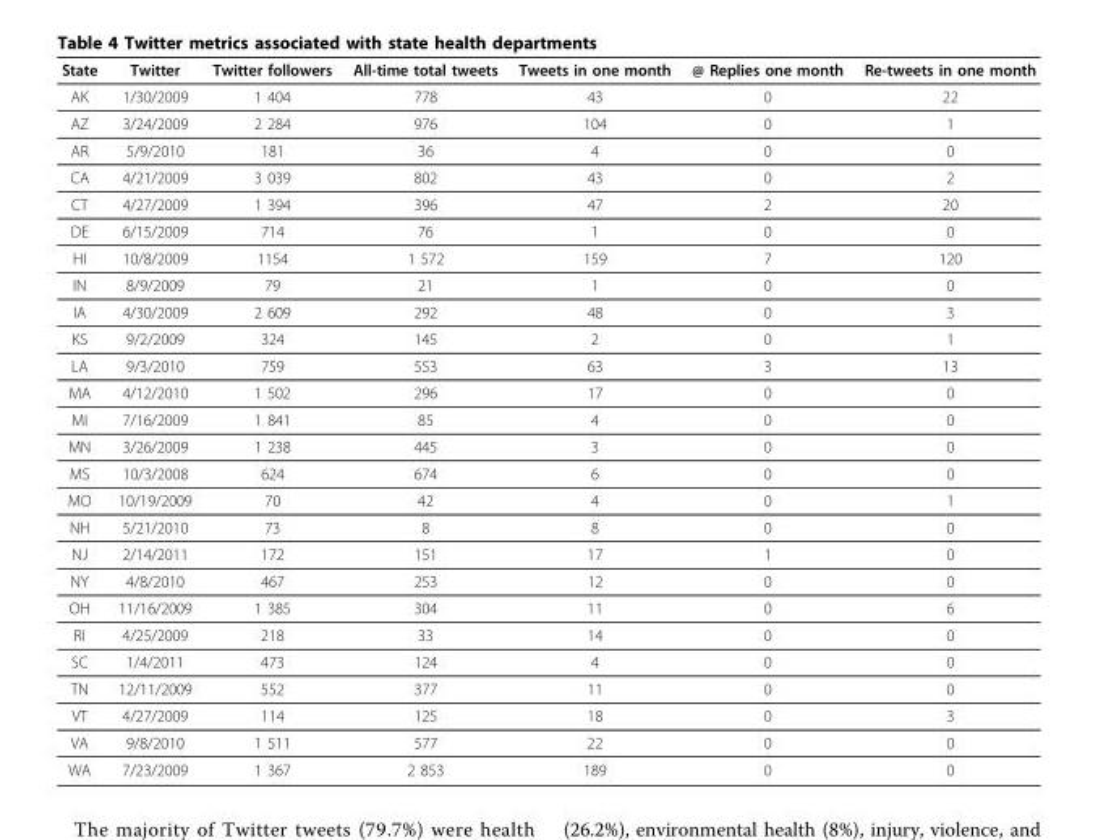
<table><thead><tr><td>State</td><td>Twitter</td><td>Twitter followers</td><td>All-time total tweets</td><td>Tweets in one month</td><td>@ Replies one month</td><td>Re-tweets in one month</td></tr></thead><tbody><tr><td>AK</td><td>1/30/2009</td><td>1 404</td><td>778</td><td>43</td><td>0</td><td>22</td></tr><tr><td>AZ</td><td>3/24/2009</td><td>2 284</td><td>976</td><td>104</td><td>0</td><td>1</td></tr><tr><td>AR</td><td>5/9/2010</td><td>181</td><td>36</td><td>4</td><td>0</td><td>0</td></tr><tr><td>CA</td><td>4/21/2009</td><td>3 039</td><td>802</td><td>43</td><td>0</td><td>2</td></tr><tr><td>CT</td><td>4/27/2009</td><td>1 394</td><td>396</td><td>47</td><td>2</td><td>20</td></tr><tr><td>DE</td><td>6/15/2009</td><td>714</td><td>76</td><td>1</td><td>0</td><td>0</td></tr><tr><td>HI</td><td>10/8/2009</td><td>1154</td><td>1 572</td><td>159</td><td>7</td><td>120</td></tr><tr><td>IN</td><td>8/9/2009</td><td>79</td><td>21</td><td>1</td><td>0</td><td>0</td></tr><tr><td>IA</td><td>4/30/2009</td><td>2 609</td><td>292</td><td>48</td><td>0</td><td>3</td></tr><tr><td>KS</td><td>9/2/2009</td><td>324</td><td>145</td><td>2</td><td>0</td><td>1</td></tr><tr><td>LA</td><td>9/3/2010</td><td>759</td><td>553</td><td>63</td><td>3</td><td>13</td></tr><tr><td>MA</td><td>4/12/2010</td><td>1 502</td><td>296</td><td>17</td><td>0</td><td>0</td></tr><tr><td>MI</td><td>7/16/2009</td><td>1 841</td><td>85</td><td>4</td><td>0</td><td>0</td></tr><tr><td>MN</td><td>3/26/2009</td><td>1 238</td><td>445</td><td>3</td><td>0</td><td>0</td></tr><tr><td>MS</td><td>10/3/2008</td><td>624</td><td>674</td><td>6</td><td>0</td><td>0</td></tr><tr><td>MO</td><td>10/19/2009</td><td>70</td><td>42</td><td>4</td><td>0</td><td>1</td></tr><tr><td>NH</td><td>5/21/2010</td><td>73</td><td>8</td><td>8</td><td>0</td><td>0</td></tr><tr><td>NJ</td><td>2/14/2011</td><td>172</td><td>151</td><td>17</td><td>1</td><td>0</td></tr><tr><td>NY</td><td>4/8/2010</td><td>467</td><td>253</td><td>12</td><td>0</td><td>0</td></tr><tr><td>OH</td><td>11/16/2009</td><td>1 385</td><td>304</td><td>11</td><td>0</td><td>6</td></tr><tr><td>RI</td><td>4/25/2009</td><td>218</td><td>33</td><td>14</td><td>0</td><td>0</td></tr><tr><td>SC</td><td>1/4/2011</td><td>473</td><td>124</td><td>4</td><td>0</td><td>0</td></tr><tr><td>TN</td><td>12/11/2009</td><td>552</td><td>377</td><td>11</td><td>0</td><td>0</td></tr><tr><td>VT</td><td>4/27/2009</td><td>114</td><td>125</td><td>18</td><td>0</td><td>3</td></tr><tr><td>VA</td><td>9/8/2010</td><td>1 511</td><td>577</td><td>22</td><td>0</td><td>0</td></tr><tr><td>WA</td><td>7/23/2009</td><td>1 367</td><td>2 853</td><td>189</td><td>0</td><td>0</td></tr></tbody></table>